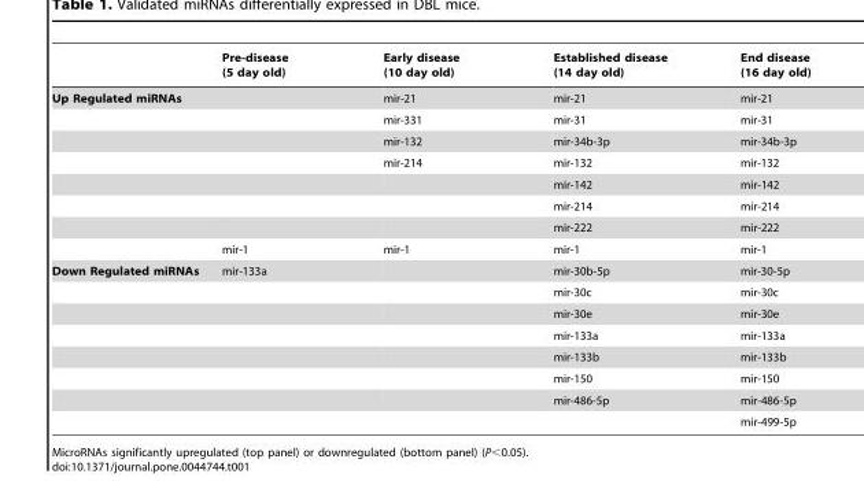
<table><thead><tr><td></td><td>Pre-disease (5 day old)</td><td>Early disease (10 day old)</td><td>Established disease (14 day old)</td><td>End disease (16 day old)</td></tr></thead><tbody><tr><td rowspan="8">Up Regulated miRNAs</td><td></td><td>mir-21</td><td>mir-21</td><td>mir-21</td></tr><tr><td></td><td>mir-331</td><td>mir-31</td><td>mir-31</td></tr><tr><td></td><td>mir-132</td><td>mir-34b-3p</td><td>mir-34b-3p</td></tr><tr><td></td><td>mir-214</td><td>mir-132</td><td>mir-132</td></tr><tr><td></td><td></td><td>mir-142</td><td>mir-142</td></tr><tr><td></td><td></td><td>mir-214</td><td>mir-214</td></tr><tr><td></td><td></td><td>mir-222</td><td>mir-222</td></tr><tr><td>mir-1</td><td>mir-1</td><td>mir-1</td><td>mir-1</td></tr><tr><td rowspan="8">Down Regulated miRNAs</td><td>mir-133a</td><td></td><td>mir-30b-5p</td><td>mir-30-5p</td></tr><tr><td></td><td></td><td>mir-30c</td><td>mir-30c</td></tr><tr><td></td><td></td><td>mir-30e</td><td>mir-30e</td></tr><tr><td></td><td></td><td>mir-133a</td><td>mir-133a</td></tr><tr><td></td><td></td><td>mir-133b</td><td>mir-133b</td></tr><tr><td></td><td></td><td>mir-150</td><td>mir-150</td></tr><tr><td></td><td></td><td>mir-486-5p</td><td>mir-486-5p</td></tr><tr><td></td><td></td><td></td><td>mir-499-5p</td></tr></tbody></table>